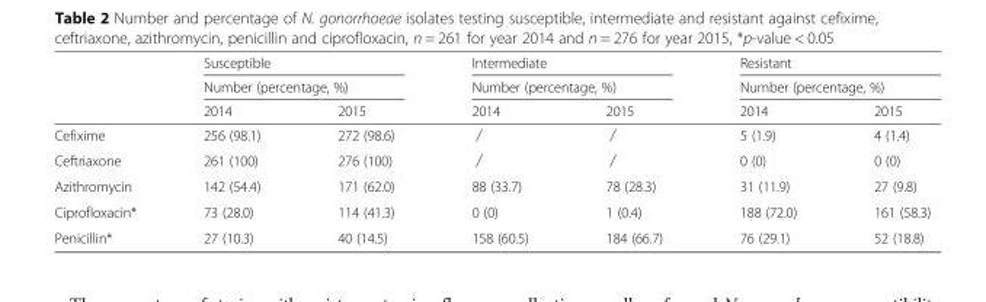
<table><thead><tr><td rowspan="3"></td><td rowspan="2" colspan="2">Susceptible Number (percentage, %)</td><td rowspan="2" colspan="2">Intermediate Number (percentage, %)</td><td rowspan="2" colspan="2">Resistant Number (percentage, %)</td></tr><tr></tr><tr><td>2014</td><td>2015</td><td>2014</td><td>2015</td><td>2014</td><td>2015</td></tr></thead><tbody><tr><td>Cefixime</td><td>256 (98.1)</td><td>272 (98.6)</td><td>∕</td><td>∕</td><td>5 (1.9)</td><td>4 (1.4)</td></tr><tr><td>Ceftriaxone</td><td>261 (100)</td><td>276 (100)</td><td>∕</td><td>∕</td><td>0 (0)</td><td>0 (0)</td></tr><tr><td>Azithromycin</td><td>142 (54.4)</td><td>171 (62.0)</td><td>88 (33.7)</td><td>78 (28.3)</td><td>31 (11.9)</td><td>27 (9.8)</td></tr><tr><td>Ciprofloxacin*</td><td>73 (28.0)</td><td>114 (41.3)</td><td>0 (0)</td><td>1 (0.4)</td><td>188 (72.0)</td><td>161 (58.3)</td></tr><tr><td>Penicillin*</td><td>27 (10.3)</td><td>40 (14.5)</td><td>158 (60.5)</td><td>184 (66.7)</td><td>76 (29.1)</td><td>52 (18.8)</td></tr></tbody></table>